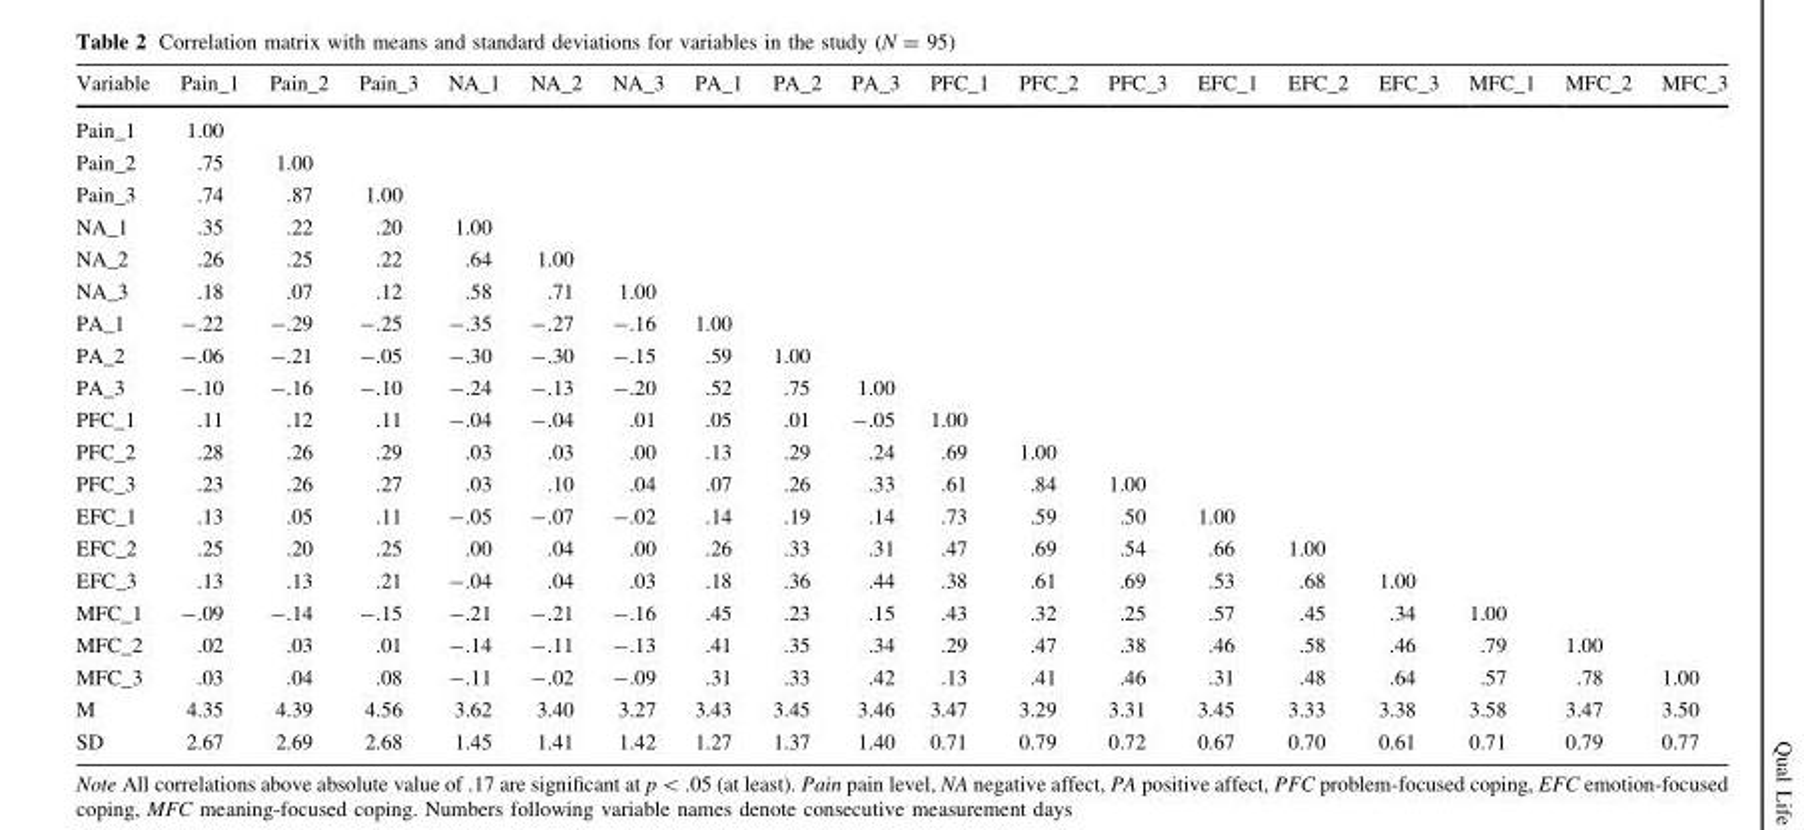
<table><thead><tr><td>Variable</td><td>Pain_1</td><td>Pain_2</td><td>Pain_3</td><td>NA_1</td><td>NA_2</td><td>NA_3</td><td>PA_1</td><td>PA_2</td><td>PA_3</td><td>PFC_1</td><td>PFC_2</td><td>PFC_3</td><td>EFC_1</td><td>EFC_2</td><td>EFC_3</td><td>MFC_1</td><td>MFC_2</td><td>MFC_3</td></tr></thead><tbody><tr><td>Pain_1</td><td>1.00</td><td></td><td></td><td></td><td></td><td></td><td></td><td></td><td></td><td></td><td></td><td></td><td></td><td></td><td></td><td></td><td></td><td></td></tr><tr><td>Pain_2</td><td>.75</td><td>1.00</td><td></td><td></td><td></td><td></td><td></td><td></td><td></td><td></td><td></td><td></td><td></td><td></td><td></td><td></td><td></td><td></td></tr><tr><td>Pain_3</td><td>.74</td><td>.87</td><td>1.00</td><td></td><td></td><td></td><td></td><td></td><td></td><td></td><td></td><td></td><td></td><td></td><td></td><td></td><td></td><td></td></tr><tr><td>NA_1</td><td>.35</td><td>.22</td><td>.20</td><td>1.00</td><td></td><td></td><td></td><td></td><td></td><td></td><td></td><td></td><td></td><td></td><td></td><td></td><td></td><td></td></tr><tr><td>NA_2</td><td>.26</td><td>.25</td><td>.22</td><td>.64</td><td>1.00</td><td></td><td></td><td></td><td></td><td></td><td></td><td></td><td></td><td></td><td></td><td></td><td></td><td></td></tr><tr><td>NA_3</td><td>.18</td><td>.07</td><td>.12</td><td>.58</td><td>.71</td><td>1.00</td><td></td><td></td><td></td><td></td><td></td><td></td><td></td><td></td><td></td><td></td><td></td><td></td></tr><tr><td>PA_1</td><td>-.22</td><td>-.29</td><td>-.25</td><td>-.35</td><td>-.27</td><td>-.16</td><td>1.00</td><td></td><td></td><td></td><td></td><td></td><td></td><td></td><td></td><td></td><td></td><td></td></tr><tr><td>PA_2</td><td>-.06</td><td>-.21</td><td>-.05</td><td>-.30</td><td>-.30</td><td>-.15</td><td>.59</td><td>1.00</td><td></td><td></td><td></td><td></td><td></td><td></td><td></td><td></td><td></td><td></td></tr><tr><td>PA_3</td><td>-.10</td><td>-.16</td><td>-.10</td><td>-.24</td><td>-.13</td><td>-.20</td><td>.52</td><td>.75</td><td>1.00</td><td></td><td></td><td></td><td></td><td></td><td></td><td></td><td></td><td></td></tr><tr><td>PFC_1</td><td>.11</td><td>.12</td><td>.11</td><td>-.04</td><td>-.04</td><td>.01</td><td>.05</td><td>.01</td><td>-.05</td><td>1.00</td><td></td><td></td><td></td><td></td><td></td><td></td><td></td><td></td></tr><tr><td>PFC_2</td><td>.28</td><td>.26</td><td>.29</td><td>.03</td><td>.03</td><td>.00</td><td>.13</td><td>.29</td><td>.24</td><td>.69</td><td>1.00</td><td></td><td></td><td></td><td></td><td></td><td></td><td></td></tr><tr><td>PFC_3</td><td>.23</td><td>.26</td><td>.27</td><td>.03</td><td>.10</td><td>.04</td><td>.07</td><td>.26</td><td>.33</td><td>.61</td><td>.84</td><td>1.00</td><td></td><td></td><td></td><td></td><td></td><td></td></tr><tr><td>EFC_1</td><td>.13</td><td>.05</td><td>.11</td><td>-.05</td><td>-.07</td><td>-.02</td><td>.14</td><td>.19</td><td>.14</td><td>.73</td><td>.59</td><td>.50</td><td>1.00</td><td></td><td></td><td></td><td></td><td></td></tr><tr><td>EFC_2</td><td>.25</td><td>.20</td><td>.25</td><td>.00</td><td>.04</td><td>.00</td><td>.26</td><td>.33</td><td>.31</td><td>.47</td><td>.69</td><td>.54</td><td>.66</td><td>1.00</td><td></td><td></td><td></td><td></td></tr><tr><td>EFC_3</td><td>.13</td><td>.13</td><td>.21</td><td>-.04</td><td>.04</td><td>.03</td><td>.18</td><td>.36</td><td>.44</td><td>.38</td><td>.61</td><td>.69</td><td>.53</td><td>.68</td><td>1.00</td><td></td><td></td><td></td></tr><tr><td>MFC_1</td><td>-.09</td><td>-.14</td><td>-.15</td><td>-.21</td><td>-.21</td><td>-.16</td><td>.45</td><td>.23</td><td>.15</td><td>.43</td><td>.32</td><td>.25</td><td>.57</td><td>.45</td><td>.34</td><td>1.00</td><td></td><td></td></tr><tr><td>MFC_2</td><td>.02</td><td>.03</td><td>.01</td><td>-.14</td><td>-.11</td><td>-.13</td><td>.41</td><td>.35</td><td>.34</td><td>.29</td><td>.47</td><td>.38</td><td>.46</td><td>.58</td><td>.46</td><td>.79</td><td>1.00</td><td></td></tr><tr><td>MFC_3</td><td>.03</td><td>.04</td><td>.08</td><td>-.11</td><td>-.02</td><td>-.09</td><td>.31</td><td>.33</td><td>.42</td><td>.13</td><td>.41</td><td>.46</td><td>.31</td><td>.48</td><td>.64</td><td>.57</td><td>.78</td><td>1.00</td></tr><tr><td>M</td><td>4.35</td><td>4.39</td><td>4.56</td><td>3.62</td><td>3.40</td><td>3.27</td><td>3.43</td><td>3.45</td><td>3.46</td><td>3.47</td><td>3.29</td><td>3.31</td><td>3.45</td><td>3.33</td><td>3.38</td><td>3.58</td><td>3.47</td><td>3.50</td></tr><tr><td>SD</td><td>2.67</td><td>2.69</td><td>2.68</td><td>1.45</td><td>1.41</td><td>1.42</td><td>1.27</td><td>1.37</td><td>1.40</td><td>0.71</td><td>0.79</td><td>0.72</td><td>0.67</td><td>0.70</td><td>0.61</td><td>0.71</td><td>0.79</td><td>0.77</td></tr></tbody></table>